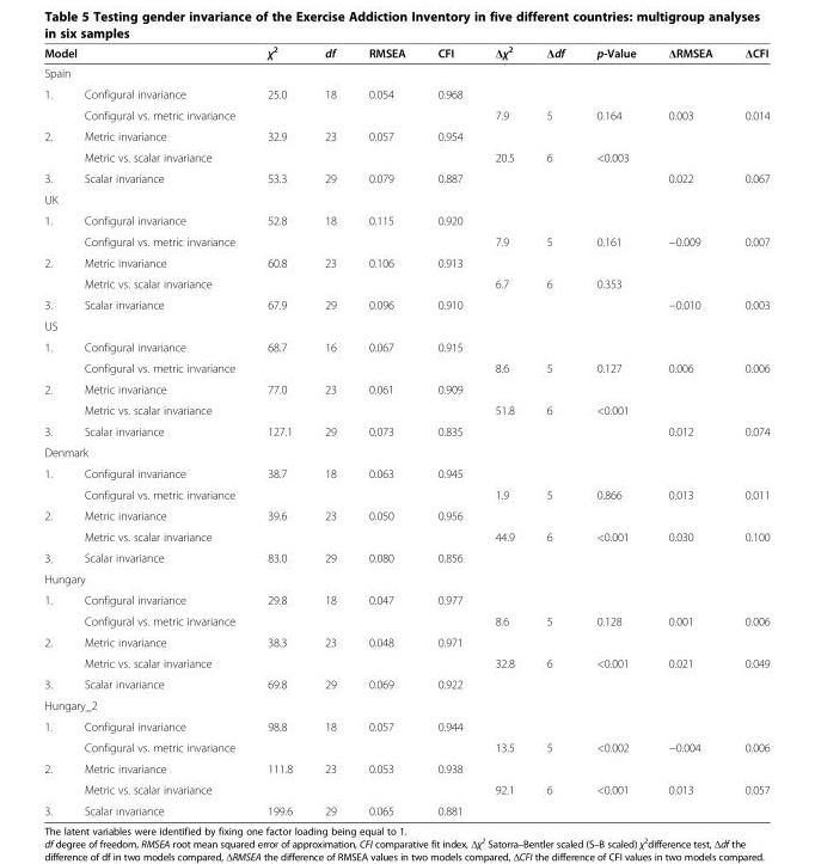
<table><thead><tr><td colspan="2">Model</td><td>χ<sup>2</sup></td><td>df</td><td>RMSEA</td><td>CFI</td><td>Δχ<sup>2</sup></td><td>Δdf</td><td>p-Value</td><td>ΔRMSEA</td><td>ΔCFI</td></tr><tr><td colspan="11">Spain</td></tr><tr><td>1.</td><td>Configural invariance</td><td>25.0</td><td>18</td><td>0.054</td><td>0.968</td><td></td><td></td><td></td><td></td><td></td></tr></thead><tbody><tr><td></td><td>Configural vs. metric invariance</td><td></td><td></td><td></td><td></td><td>7.9</td><td>5</td><td>0.164</td><td>0.003</td><td>0.014</td></tr><tr><td rowspan="2">2.</td><td>Metric invariance</td><td>32.9</td><td>23</td><td>0.057</td><td>0.954</td><td></td><td></td><td></td><td></td><td></td></tr><tr><td>Metric vs. scalar invariance</td><td></td><td></td><td></td><td></td><td>20.5</td><td>6</td><td>&lt;0.003</td><td></td><td></td></tr><tr><td>3.</td><td>Scalar invariance</td><td>53.3</td><td>29</td><td>0.079</td><td>0.887</td><td></td><td></td><td></td><td>0.022</td><td>0.067</td></tr><tr><td colspan="11">UK</td></tr><tr><td rowspan="2">1.</td><td>Configural invariance</td><td>52.8</td><td>18</td><td>0.115</td><td>0.920</td><td></td><td></td><td></td><td></td><td></td></tr><tr><td>Configural vs. metric invariance</td><td></td><td></td><td></td><td></td><td>7.9</td><td>5</td><td>0.161</td><td>−0.009</td><td>0.007</td></tr><tr><td rowspan="2">2.</td><td>Metric invariance</td><td>60.8</td><td>23</td><td>0.106</td><td>0.913</td><td></td><td></td><td></td><td></td><td></td></tr><tr><td>Metric vs. scalar invariance</td><td></td><td></td><td></td><td></td><td>6.7</td><td>6</td><td>0.353</td><td></td><td></td></tr><tr><td>3.</td><td>Scalar invariance</td><td>67.9</td><td>29</td><td>0.096</td><td>0.910</td><td></td><td></td><td></td><td>−0.010</td><td>0.003</td></tr><tr><td colspan="11">US</td></tr><tr><td rowspan="2">1.</td><td>Configural invariance</td><td>68.7</td><td>16</td><td>0.067</td><td>0.915</td><td></td><td></td><td></td><td></td><td></td></tr><tr><td>Configural vs. metric invariance</td><td></td><td></td><td></td><td></td><td>8.6</td><td>5</td><td>0.127</td><td>0.006</td><td>0.006</td></tr><tr><td rowspan="2">2.</td><td>Metric invariance</td><td>77.0</td><td>23</td><td>0.061</td><td>0.909</td><td></td><td></td><td></td><td></td><td></td></tr><tr><td>Metric vs. scalar invariance</td><td></td><td></td><td></td><td></td><td>51.8</td><td>6</td><td>&lt;0.001</td><td></td><td></td></tr><tr><td>3.</td><td>Scalar invariance</td><td>127.1</td><td>29</td><td>0.073</td><td>0.835</td><td></td><td></td><td></td><td>0.012</td><td>0.074</td></tr><tr><td colspan="11">Denmark</td></tr><tr><td rowspan="2">1.</td><td>Configural invariance</td><td>38.7</td><td>18</td><td>0.063</td><td>0.945</td><td></td><td></td><td></td><td></td><td></td></tr><tr><td>Configural vs. metric invariance</td><td></td><td></td><td></td><td></td><td>1.9</td><td>5</td><td>0.866</td><td>0.013</td><td>0.011</td></tr><tr><td rowspan="2">2.</td><td>Metric invariance</td><td>39.6</td><td>23</td><td>0.050</td><td>0.956</td><td></td><td></td><td></td><td></td><td></td></tr><tr><td>Metric vs. scalar invariance</td><td></td><td></td><td></td><td></td><td>44.9</td><td>6</td><td>&lt;0.001</td><td>0.030</td><td>0.100</td></tr><tr><td>3.</td><td>Scalar invariance</td><td>83.0</td><td>29</td><td>0.080</td><td>0.856</td><td></td><td></td><td></td><td></td><td></td></tr><tr><td colspan="11">Hungary</td></tr><tr><td rowspan="2">1.</td><td>Configural invariance</td><td>29.8</td><td>18</td><td>0.047</td><td>0.977</td><td></td><td></td><td></td><td></td><td></td></tr><tr><td>Configural vs. metric invariance</td><td></td><td></td><td></td><td></td><td>8.6</td><td>5</td><td>0.128</td><td>0.001</td><td>0.006</td></tr><tr><td rowspan="2">2.</td><td>Metric invariance</td><td>38.3</td><td>23</td><td>0.048</td><td>0.971</td><td></td><td></td><td></td><td></td><td></td></tr><tr><td>Metric vs. scalar invariance</td><td></td><td></td><td></td><td></td><td>32.8</td><td>6</td><td>&lt;0.001</td><td>0.021</td><td>0.049</td></tr><tr><td>3.</td><td>Scalar invariance</td><td>69.8</td><td>29</td><td>0.069</td><td>0.922</td><td></td><td></td><td></td><td></td><td></td></tr><tr><td colspan="11">Hungary_2</td></tr><tr><td rowspan="2">1.</td><td>Configural invariance</td><td>98.8</td><td>18</td><td>0.057</td><td>0.944</td><td></td><td></td><td></td><td></td><td></td></tr><tr><td>Configural vs. metric invariance</td><td></td><td></td><td></td><td></td><td>13.5</td><td>5</td><td>&lt;0.002</td><td>−0.004</td><td>0.006</td></tr><tr><td rowspan="2">2.</td><td>Metric invariance</td><td>111.8</td><td>23</td><td>0.053</td><td>0.938</td><td></td><td></td><td></td><td></td><td></td></tr><tr><td>Metric vs. scalar invariance</td><td></td><td></td><td></td><td></td><td>92.1</td><td>6</td><td>&lt;0.001</td><td>0.013</td><td>0.057</td></tr><tr><td>3.</td><td>Scalar invariance</td><td>199.6</td><td>29</td><td>0.065</td><td>0.881</td><td></td><td></td><td></td><td></td><td></td></tr></tbody></table>